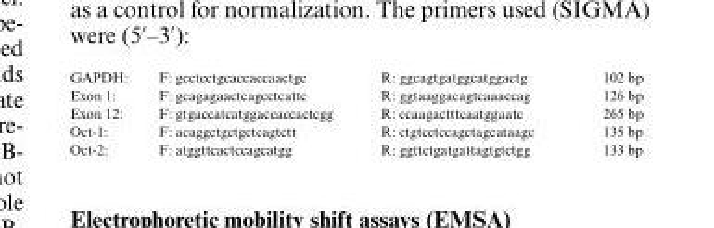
<table><tbody><tr><td>GAPDH:</td><td>F: gcctcctgcaccaccaactgc</td><td>R: ggcagtgatggcatggactg</td><td>102 bp</td></tr><tr><td>Exon 1:</td><td>F: gcagagaactcagcctcattc</td><td>R: ggtaaggacagtcaaaccag</td><td>126 bp</td></tr><tr><td>Exon 12:</td><td>F: gtgaccatcatggaccaccactcgg</td><td>R: ccaagactttcaatggaatc</td><td>265 bp</td></tr><tr><td>Oct-1:</td><td>F: acaggctgctgctcagtctt</td><td>R: ctgtcctccagctagcataagc</td><td>135 bp</td></tr><tr><td>Oct-2:</td><td>F: atggttcactccagcatgg</td><td>R: ggttctgatgattagtgtctgg</td><td>133 bp</td></tr></tbody></table>